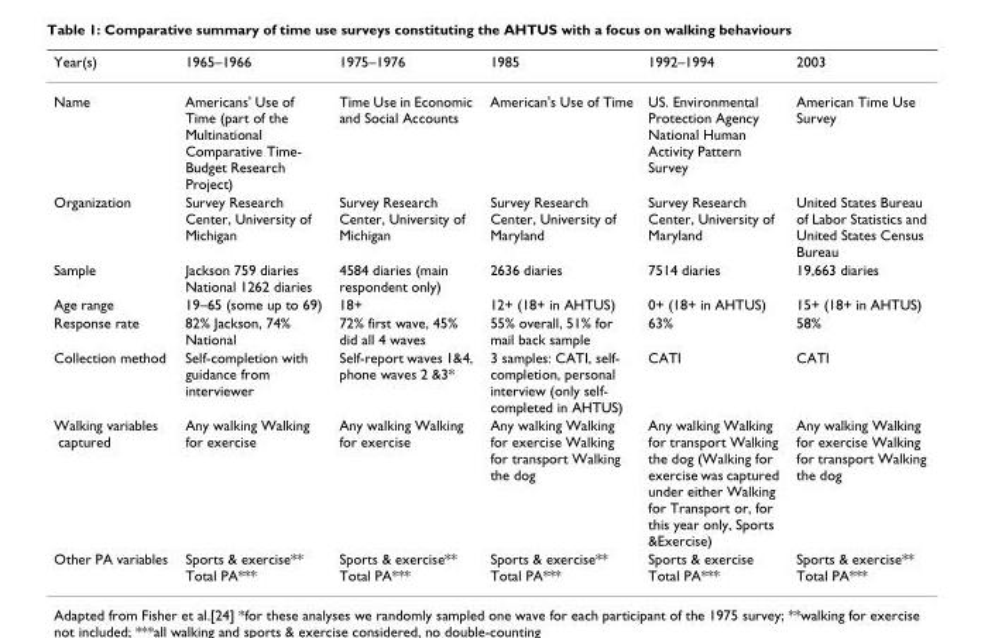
<table><thead><tr><td>Year(s)</td><td>1965–1966</td><td>1975–1976</td><td>1985</td><td>1992–1994</td><td>2003</td></tr></thead><tbody><tr><td>Name</td><td>Americans&#x27; Use of Time (part of the Multinational Comparative Time- Budget Research Project)</td><td>Time Use in Economic and Social Accounts</td><td>American&#x27;s Use of Time</td><td>US. Environmental Protection Agency National Human Activity Pattern Survey</td><td>American Time Use Survey</td></tr><tr><td>Organization</td><td>Survey Research Center, University of Michigan</td><td>Survey Research Center, University of Michigan</td><td>Survey Research Center, University of Maryland</td><td>Survey Research Center, University of Maryland</td><td>United States Bureau of Labor Statistics and United States Census Bureau</td></tr><tr><td>Sample</td><td>Jackson 759 diaries National 1262 diaries</td><td>4584 diaries (main respondent only)</td><td>2636 diaries</td><td>7514 diaries</td><td>19,663 diaries</td></tr><tr><td>Age range</td><td>19–65 (some up to 69)</td><td>18+</td><td>12+ (18+ in AHTUS)</td><td>0+ (18+ in AHTUS)</td><td>15+ (18+ in AHTUS)</td></tr><tr><td>Response rate</td><td>82% Jackson, 74% National</td><td>72% first wave, 45% did all 4 waves</td><td>55% overall, 51% for mail back sample</td><td>63%</td><td>58%</td></tr><tr><td>Collection method</td><td>Self-completion with guidance from interviewer</td><td>Self-report waves 1&amp;4, phone waves 2 &amp;3*</td><td>3 samples: CATI, self- completion, personal interview (only self- completed in AHTUS)</td><td>CATI</td><td>CATI</td></tr><tr><td>Walking variables captured</td><td>Any walking Walking for exercise</td><td>Any walking Walking for exercise</td><td>Any walking Walking for exercise Walking for transport Walking the dog</td><td>Any walking Walking for transport Walking the dog (Walking for exercise was captured under either Walking for Transport or, for this year only, Sports &amp;Exercise)</td><td>Any walking Walking for exercise Walking for transport Walking the dog</td></tr><tr><td>Other PA variables</td><td>Sports &amp; exercise** Total PA***</td><td>Sports &amp; exercise** Total PA***</td><td>Sports &amp; exercise** Total PA***</td><td>Sports &amp; exercise Total PA***</td><td>Sports &amp; exercise** Total PA***</td></tr></tbody></table>